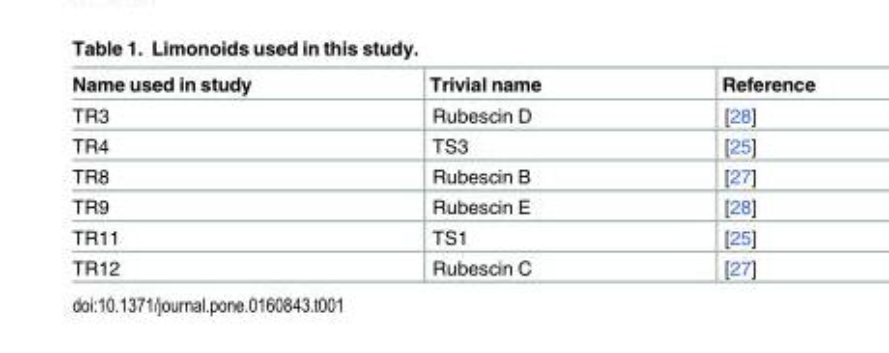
<table><thead><tr><td>Name used in study</td><td>Trivial name</td><td>Reference</td></tr></thead><tbody><tr><td>TR3</td><td>Rubescin D</td><td>[28]</td></tr><tr><td>TR4</td><td>TS3</td><td>[25]</td></tr><tr><td>TR8</td><td>Rubescin B</td><td>[27]</td></tr><tr><td>TR9</td><td>Rubescin E</td><td>[28]</td></tr><tr><td>TR11</td><td>TS1</td><td>[25]</td></tr><tr><td>TR12</td><td>Rubescin C</td><td>[27]</td></tr></tbody></table>